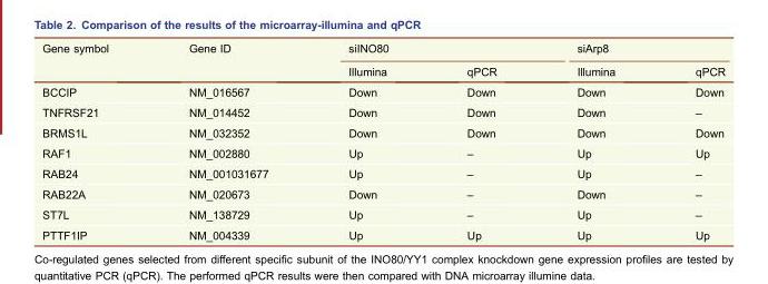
<table><thead><tr><td rowspan="2">Gene symbol</td><td rowspan="2">Gene ID</td><td colspan="2">siINO80</td><td colspan="2">siArp8</td></tr><tr><td>Illumina</td><td>qPCR</td><td>Illumina</td><td>qPCR</td></tr></thead><tbody><tr><td>BCCIP</td><td>NM_016567</td><td>Down</td><td>Down</td><td>Down</td><td>Down</td></tr><tr><td>TNFRSF21</td><td>NM_014452</td><td>Down</td><td>Down</td><td>Down</td><td>–</td></tr><tr><td>BRMS1L</td><td>NM_032352</td><td>Down</td><td>Down</td><td>Down</td><td>Down</td></tr><tr><td>RAF1</td><td>NM_002880</td><td>Up</td><td>–</td><td>Up</td><td>Up</td></tr><tr><td>RAB24</td><td>NM_001031677</td><td>Up</td><td>–</td><td>Up</td><td>–</td></tr><tr><td>RAB22A</td><td>NM_020673</td><td>Down</td><td>–</td><td>Down</td><td>–</td></tr><tr><td>ST7L</td><td>NM_138729</td><td>Up</td><td>–</td><td>Up</td><td>–</td></tr><tr><td>PTTF1IP</td><td>NM_004339</td><td>Up</td><td>Up</td><td>Up</td><td>Up</td></tr></tbody></table>